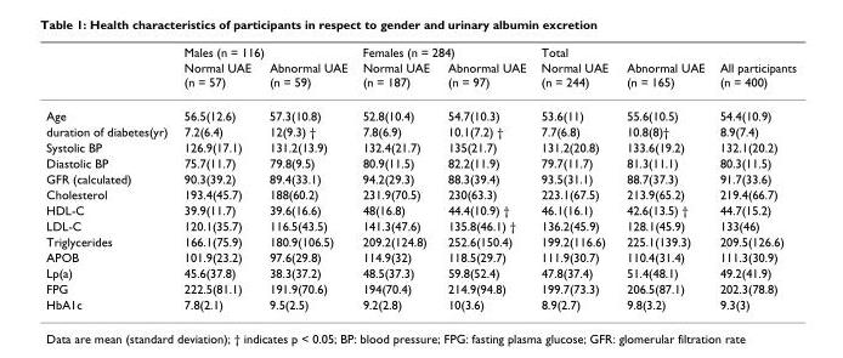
<table><thead><tr><td rowspan="2"></td><td colspan="2">Males (n = 116)</td><td colspan="2">Females (n = 284)</td><td colspan="2">Total</td><td rowspan="2">All participants (n = 400)</td></tr><tr><td>Normal UAE (n = 57)</td><td>Abnormal UAE (n = 59)</td><td>Normal UAE (n = 187)</td><td>Abnormal UAE (n = 97)</td><td>Normal UAE (n = 244)</td><td>Abnormal UAE (n = 165)</td></tr></thead><tbody><tr><td>Age</td><td>56.5(12.6)</td><td>57.3(10.8)</td><td>52.8(10.4)</td><td>54.7(10.3)</td><td>53.6(11)</td><td>55.6(10.5)</td><td>54.4(10.9)</td></tr><tr><td>duration of diabetes(yr)</td><td>7.2(6.4)</td><td>12(9.3) †</td><td>7.8(6.9)</td><td>10.1(7.2) †</td><td>7.7(6.8)</td><td>10.8(8)†</td><td>8.9(7.4)</td></tr><tr><td>Systolic BP</td><td>126.9(17.1)</td><td>131.2(13.9)</td><td>132.4(21.7)</td><td>135(21.7)</td><td>131.2(20.8)</td><td>133.6(19.2)</td><td>132.1(20.2)</td></tr><tr><td>Diastolic BP</td><td>75.7(11.7)</td><td>79.8(9.5)</td><td>80.9(11.5)</td><td>82.2(11.9)</td><td>79.7(11.7)</td><td>81.3(11.1)</td><td>80.3(11.5)</td></tr><tr><td>GFR (calculated)</td><td>90.3(39.2)</td><td>89.4(33.1)</td><td>94.2(29.3)</td><td>88.3(39.4)</td><td>93.5(31.1)</td><td>88.7(37.3)</td><td>91.7(33.6)</td></tr><tr><td>Cholesterol</td><td>193.4(45.7)</td><td>188(60.2)</td><td>231.9(70.5)</td><td>230(63.3)</td><td>223.1(67.5)</td><td>213.9(65.2)</td><td>219.4(66.7)</td></tr><tr><td>HDL-C</td><td>39.9(11.7)</td><td>39.6(16.6)</td><td>48(16.8)</td><td>44.4(10.9) †</td><td>46.1(16.1)</td><td>42.6(13.5) †</td><td>44.7(15.2)</td></tr><tr><td>LDL-C</td><td>120.1(35.7)</td><td>116.5(43.5)</td><td>141.3(47.6)</td><td>135.8(46.1) †</td><td>136.2(45.9)</td><td>128.1(45.9)</td><td>133(46)</td></tr><tr><td>Triglycerides</td><td>166.1(75.9)</td><td>180.9(106.5)</td><td>209.2(124.8)</td><td>252.6(150.4)</td><td>199.2(116.6)</td><td>225.1(139.3)</td><td>209.5(126.6)</td></tr><tr><td>APOB</td><td>101.9(23.2)</td><td>97.6(29.8)</td><td>114.9(32)</td><td>118.5(29.7)</td><td>111.9(30.7)</td><td>110.4(31.4)</td><td>111.3(30.9)</td></tr><tr><td>Lp(a)</td><td>45.6(37.8)</td><td>38.3(37.2)</td><td>48.5(37.3)</td><td>59.8(52.4)</td><td>47.8(37.4)</td><td>51.4(48.1)</td><td>49.2(41.9)</td></tr><tr><td>FPG</td><td>222.5(81.1)</td><td>191.9(70.6)</td><td>194(70.4)</td><td>214.9(94.8)</td><td>199.7(73.3)</td><td>206.5(87.1)</td><td>202.3(78.8)</td></tr><tr><td>HbA1c</td><td>7.8(2.1)</td><td>9.5(2.5)</td><td>9.2(2.8)</td><td>10(3.6)</td><td>8.9(2.7)</td><td>9.8(3.2)</td><td>9.3(3)</td></tr></tbody></table>